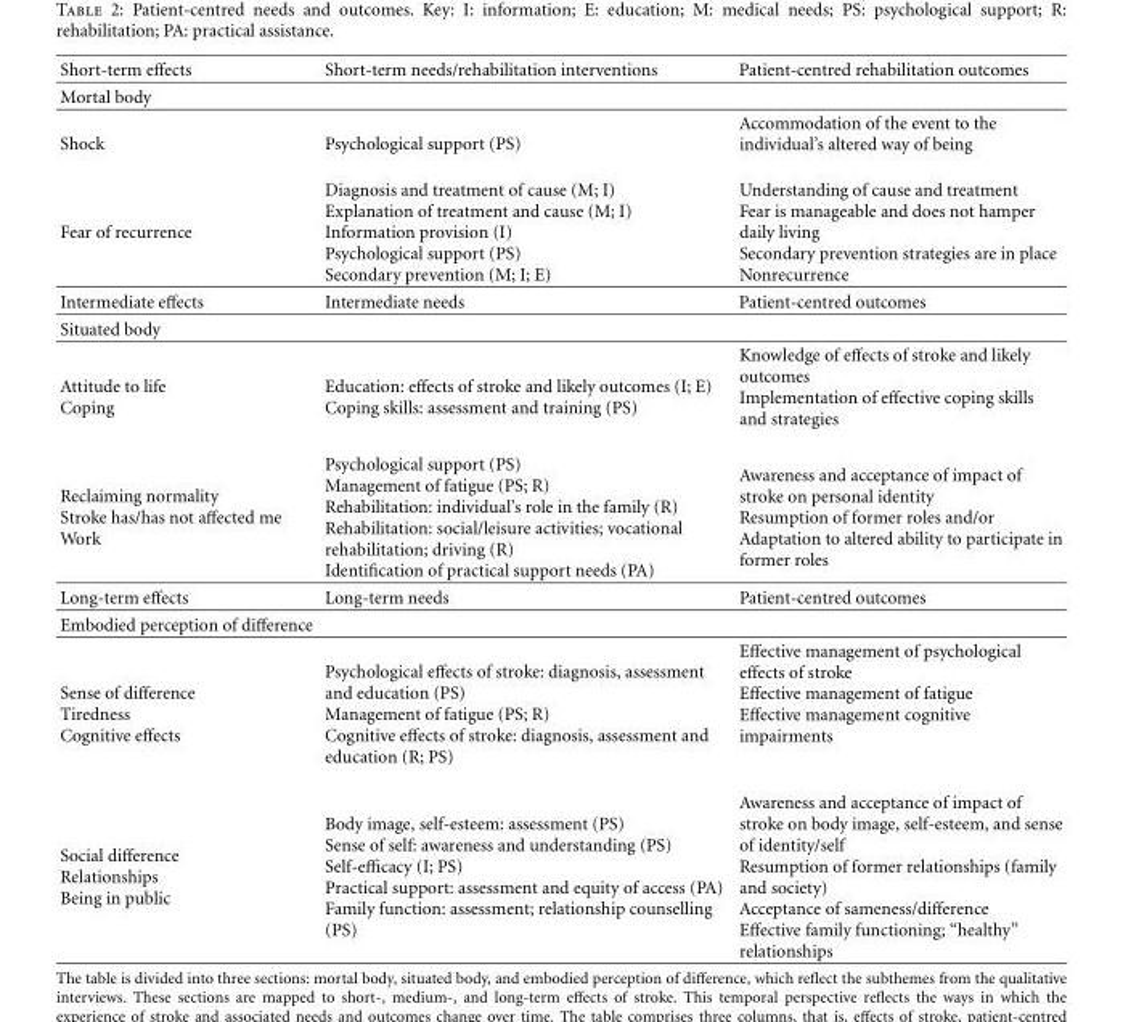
<table><thead><tr><td rowspan="2">Short-term effects Mortal body</td><td rowspan="2">Short-term needs/rehabilitation interventions</td><td rowspan="2">Patient-centred rehabilitation outcomes</td></tr><tr></tr></thead><tbody><tr><td>Shock</td><td>Psychological support (PS)</td><td>Accommodation of the event to the individual’s altered way of being</td></tr><tr><td>Fear of recurrence</td><td>Diagnosis and treatment of cause (M; I) Explanation of treatment and cause (M; I) Information provision (I) Psychological support (PS) Secondary prevention (M; I; E)</td><td>Understanding of cause and treatment Fear is manageable and does not hamper daily living Secondary prevention strategies are in place Nonrecurrence</td></tr><tr><td>Intermediate effects</td><td>Intermediate needs</td><td>Patient-centred outcomes</td></tr><tr><td colspan="3">Situated body</td></tr><tr><td>Attitude to life Coping</td><td>Education: effects of stroke and likely outcomes (I; E) Coping skills: assessment and training (PS)</td><td>Knowledge of effects of stroke and likely outcomes Implementation of effective coping skills and strategies</td></tr><tr><td>Reclaiming normality Stroke has/has not affected me Work</td><td>Psychological support (PS) Management of fatigue (PS; R) Rehabilitation: individual’s role in the family (R) Rehabilitation: social/leisure activities; vocational rehabilitation; driving (R) Identification of practical support needs (PA)</td><td>Awareness and acceptance of impact of stroke on personal identity Resumption of former roles and/or Adaptation to altered ability to participate in former roles</td></tr><tr><td>Long-term effects</td><td>Long-term needs</td><td>Patient-centred outcomes</td></tr><tr><td colspan="3">Embodied perception of difference</td></tr><tr><td>Sense of difference Tiredness Cognitive effects</td><td>Psychological effects of stroke: diagnosis, assessment and education (PS) Management of fatigue (PS; R) Cognitive effects of stroke: diagnosis, assessment and education (R; PS)</td><td>Effective management of psychological effects of stroke Effective management of fatigue Effective management cognitive impairments</td></tr><tr><td>Social difference Relationships Being in public</td><td>Body image, self-esteem: assessment (PS) Sense of self: awareness and understanding (PS) Self-efficacy (I; PS) Practical support: assessment and equity of access (PA) Family function: assessment; relationship counselling (PS)</td><td>Awareness and acceptance of impact of stroke on body image, self-esteem, and sense of identity/self Resumption of former relationships (family and society) Acceptance of sameness/difference Effective family functioning; “healthy” relationships</td></tr></tbody></table>